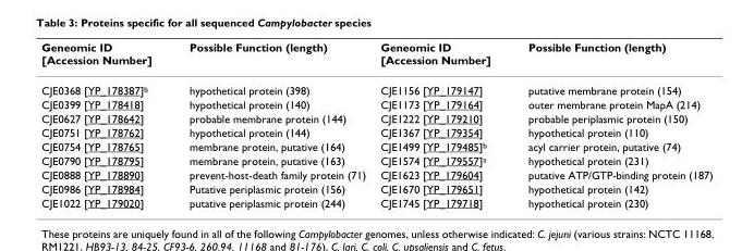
<table><thead><tr><td>Geneomic ID [Accession Number]</td><td>Possible Function (length)</td><td>Geneomic ID [Accession Number]</td><td>Possible Function (length)</td></tr></thead><tbody><tr><td>CJE0368 [YP_178387]b</td><td>hypothetical protein (398)</td><td>CJE1156 [YP_179147]</td><td>putative membrane protein (154)</td></tr><tr><td>CJE0399 [YP_178418]</td><td>hypothetical protein (140)</td><td>CJE1173 [YP_179164]</td><td>outer membrane protein MapA (214)</td></tr><tr><td>CJE0627 [YP_178642]</td><td>probable membrane protein (144)</td><td>CJE1222 [YP_179210]</td><td>probable periplasmic protein (150)</td></tr><tr><td>CJE0751 [YP_178762]</td><td>hypothetical protein (144)</td><td>CJE1367 [YP_179354]</td><td>hypothetical protein (110)</td></tr><tr><td>CJE0754 [YP_178765]</td><td>membrane protein, putative (164)</td><td>CJE1499 [YP_179485]b</td><td>acyl carrier protein, putative (74)</td></tr><tr><td>CJE0790 [YP_178795]</td><td>membrane protein, putative (163)</td><td>CJE1574 [YP_179557]a</td><td>hypothetical protein (231)</td></tr><tr><td>CJE0888 [YP_178890]</td><td>prevent-host-death family protein (71)</td><td>CJE1623 [YP_179604]</td><td>putative ATP/GTP-binding protein (187)</td></tr><tr><td>CJE0986 [YP_178984]</td><td>Putative periplasmic protein (156)</td><td>CJE1670 [YP_179651]</td><td>hypothetical protein (142)</td></tr><tr><td>CJE1022 [YP_179020]</td><td>putative periplasmic protein (244)</td><td>CJE1745 [YP_179718]</td><td>hypothetical protein (230)</td></tr></tbody></table>